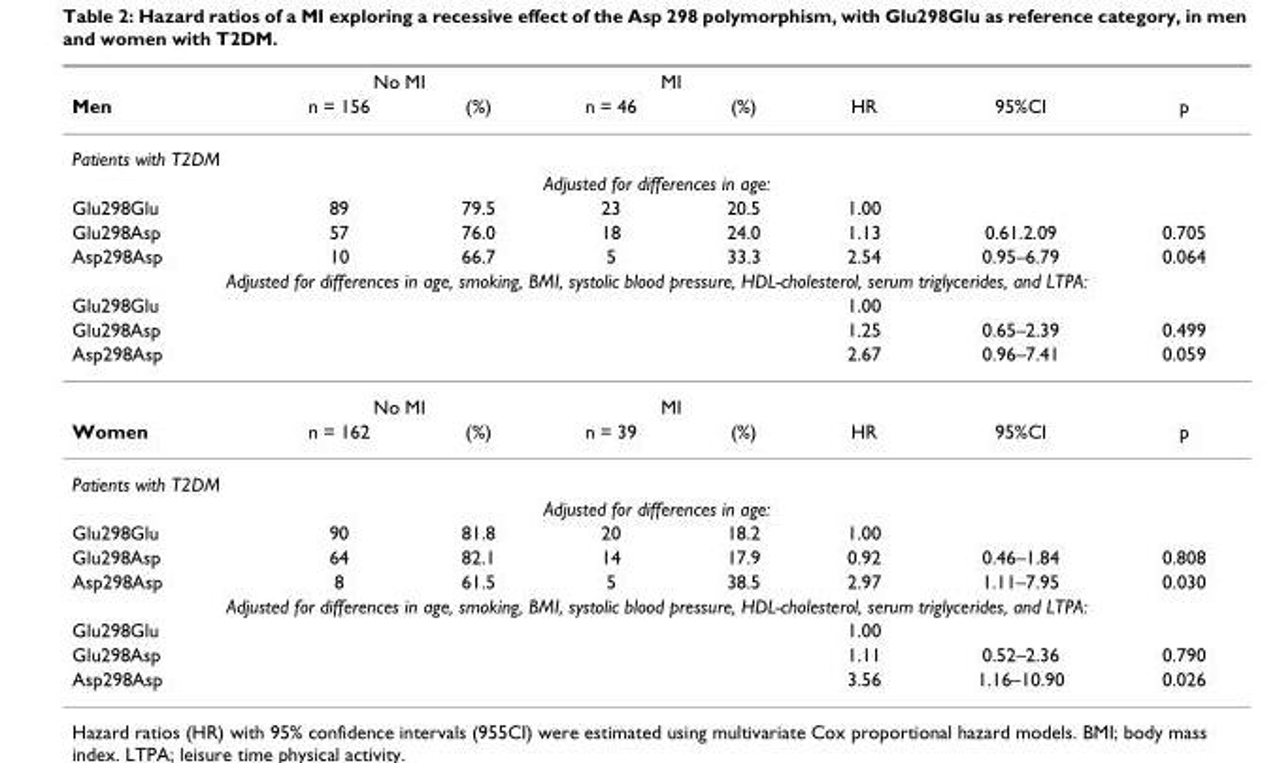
<table><thead><tr><td rowspan="2">Men</td><td colspan="2">No MI</td><td colspan="2">MI</td><td rowspan="2">HR</td><td rowspan="2">95%CI</td><td rowspan="2">p</td></tr><tr><td>n = 156</td><td>(%)</td><td>n = 46</td><td>(%)</td></tr></thead><tbody><tr><td colspan="8">Patients with T2DM</td></tr><tr><td colspan="8">Adjusted for differences in age:</td></tr><tr><td>Glu298Glu</td><td>89</td><td>79.5</td><td>23</td><td>20.5</td><td>1.00</td><td></td><td></td></tr><tr><td>Glu298Asp</td><td>57</td><td>76.0</td><td>18</td><td>24.0</td><td>1.13</td><td>0.61.2.09</td><td>0.705</td></tr><tr><td>Asp298Asp</td><td>10</td><td>66.7</td><td>5</td><td>33.3</td><td>2.54</td><td>0.95–6.79</td><td>0.064</td></tr><tr><td colspan="8">Adjusted for differences in age, smoking, BMI, systolic blood pressure, HDL-cholesterol, serum triglycerides, and LTPA:</td></tr><tr><td>Glu298Glu</td><td></td><td></td><td></td><td></td><td>1.00</td><td></td><td></td></tr><tr><td>Glu298Asp</td><td></td><td></td><td></td><td></td><td>1.25</td><td>0.65–2.39</td><td>0.499</td></tr><tr><td rowspan="2">Asp298Asp</td><td></td><td></td><td></td><td></td><td>2.67</td><td>0.96–7.41</td><td>0.059</td></tr><tr><td colspan="2">No MI</td><td colspan="2">MI</td><td></td><td></td><td></td></tr><tr><td>Women</td><td>n = 162</td><td>(%)</td><td>n = 39</td><td>(%)</td><td>HR</td><td>95%CI</td><td>p</td></tr><tr><td colspan="8">Patients with T2DM</td></tr><tr><td colspan="8">Adjusted for differences in age:</td></tr><tr><td>Glu298Glu</td><td>90</td><td>81.8</td><td>20</td><td>18.2</td><td>1.00</td><td></td><td></td></tr><tr><td>Glu298Asp</td><td>64</td><td>82.1</td><td>14</td><td>17.9</td><td>0.92</td><td>0.46–1.84</td><td>0.808</td></tr><tr><td>Asp298Asp</td><td>8</td><td>61.5</td><td>5</td><td>38.5</td><td>2.97</td><td>1.11–7.95</td><td>0.030</td></tr><tr><td colspan="8">Adjusted for differences in age, smoking, BMI, systolic blood pressure, HDL-cholesterol, serum triglycerides, and LTPA:</td></tr><tr><td>Glu298Glu</td><td></td><td></td><td></td><td></td><td>1.00</td><td></td><td></td></tr><tr><td>Glu298Asp</td><td></td><td></td><td></td><td></td><td>1.11</td><td>0.52–2.36</td><td>0.790</td></tr><tr><td>Asp298Asp</td><td></td><td></td><td></td><td></td><td>3.56</td><td>1.16–10.90</td><td>0.026</td></tr></tbody></table>